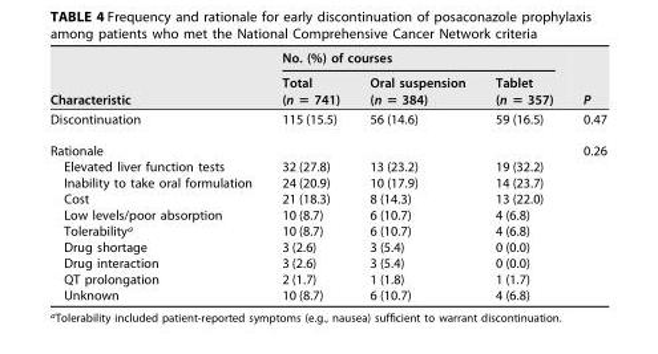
<table><thead><tr><td rowspan="2">Characteristic</td><td colspan="3">No. (%) of courses</td><td rowspan="2">P</td></tr><tr><td>Total (n = 741)</td><td>Oral suspension (n = 384)</td><td>Tablet (n = 357)</td></tr></thead><tbody><tr><td>Discontinuation</td><td>115 (15.5)</td><td>56 (14.6)</td><td>59 (16.5)</td><td>0.47</td></tr><tr><td>Rationale</td><td></td><td></td><td></td><td>0.26</td></tr><tr><td>Elevated liver function tests</td><td>32 (27.8)</td><td>13 (23.2)</td><td>19 (32.2)</td><td></td></tr><tr><td>Inability to take oral formulation</td><td>24 (20.9)</td><td>10 (17.9)</td><td>14 (23.7)</td><td></td></tr><tr><td>Cost</td><td>21 (18.3)</td><td>8 (14.3)</td><td>13 (22.0)</td><td></td></tr><tr><td>Low levels/poor absorption</td><td>10 (8.7)</td><td>6 (10.7)</td><td>4 (6.8)</td><td></td></tr><tr><td>Tolerability<sup>a</sup></td><td>10 (8.7)</td><td>6 (10.7)</td><td>4 (6.8)</td><td></td></tr><tr><td>Drug shortage</td><td>3 (2.6)</td><td>3 (5.4)</td><td>0 (0.0)</td><td></td></tr><tr><td>Drug interaction</td><td>3 (2.6)</td><td>3 (5.4)</td><td>0 (0.0)</td><td></td></tr><tr><td>QT prolongation</td><td>2 (1.7)</td><td>1 (1.8)</td><td>1 (1.7)</td><td></td></tr><tr><td>Unknown</td><td>10 (8.7)</td><td>6 (10.7)</td><td>4 (6.8)</td><td></td></tr></tbody></table>